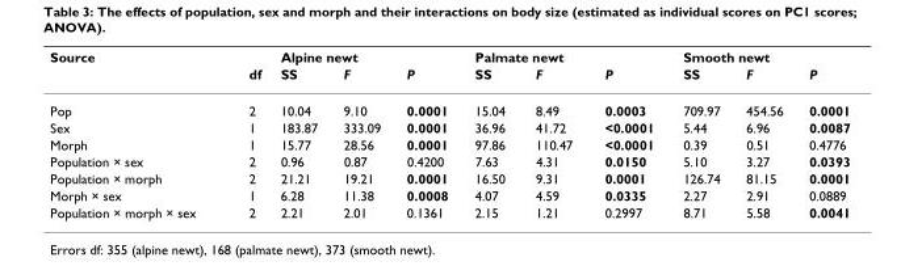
<table><thead><tr><td rowspan="2">Source</td><td rowspan="2">df</td><td colspan="2">Alpine newt</td><td rowspan="2">P</td><td colspan="2">Palmate newt</td><td rowspan="2">P</td><td colspan="2">Smooth newt</td><td rowspan="2">P</td></tr><tr><td>SS</td><td>F</td><td>SS</td><td>F</td><td>SS</td><td>F</td></tr></thead><tbody><tr><td>Pop</td><td>2</td><td>10.04</td><td>9.10</td><td>0.0001</td><td>15.04</td><td>8.49</td><td>0.0003</td><td>709.97</td><td>454.56</td><td>0.0001</td></tr><tr><td>Sex</td><td>1</td><td>183.87</td><td>333.09</td><td>0.0001</td><td>36.96</td><td>41.72</td><td>&lt;0.0001</td><td>5.44</td><td>6.96</td><td>0.0087</td></tr><tr><td>Morph</td><td>1</td><td>15.77</td><td>28.56</td><td>0.0001</td><td>97.86</td><td>110.47</td><td>&lt;0.0001</td><td>0.39</td><td>0.51</td><td>0.4776</td></tr><tr><td>Population × sex</td><td>2</td><td>0.96</td><td>0.87</td><td>0.4200</td><td>7.63</td><td>4.31</td><td>0.0150</td><td>5.10</td><td>3.27</td><td>0.0393</td></tr><tr><td>Population × morph</td><td>2</td><td>21.21</td><td>19.21</td><td>0.0001</td><td>16.50</td><td>9.31</td><td>0.0001</td><td>126.74</td><td>81.15</td><td>0.0001</td></tr><tr><td>Morph × sex</td><td>1</td><td>6.28</td><td>11.38</td><td>0.0008</td><td>4.07</td><td>4.59</td><td>0.0335</td><td>2.27</td><td>2.91</td><td>0.0889</td></tr><tr><td>Population × morph × sex</td><td>2</td><td>2.21</td><td>2.01</td><td>0.1361</td><td>2.15</td><td>1.21</td><td>0.2997</td><td>8.71</td><td>5.58</td><td>0.0041</td></tr></tbody></table>